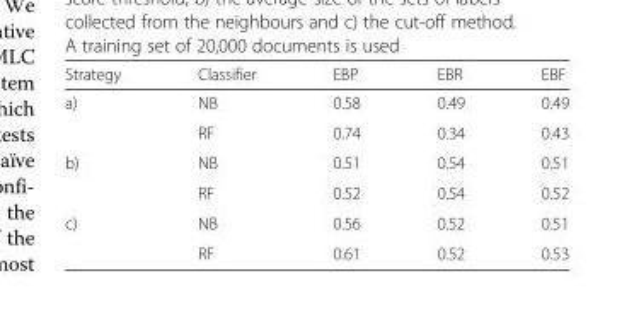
<table><thead><tr><td>Strategy</td><td>Classifier</td><td>EBP</td><td>EBR</td><td>EBF</td></tr></thead><tbody><tr><td rowspan="2">a)</td><td>NB</td><td>0.58</td><td>0.49</td><td>0.49</td></tr><tr><td>RF</td><td>0.74</td><td>0.34</td><td>0.43</td></tr><tr><td rowspan="2">b)</td><td>NB</td><td>0.51</td><td>0.54</td><td>0.51</td></tr><tr><td>RF</td><td>0.52</td><td>0.54</td><td>0.52</td></tr><tr><td rowspan="2">c)</td><td>NB</td><td>0.56</td><td>0.52</td><td>0.51</td></tr><tr><td>RF</td><td>0.61</td><td>0.52</td><td>0.53</td></tr></tbody></table>